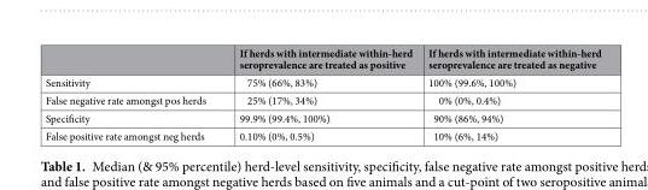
<table><thead><tr><td></td><td>If herds with intermediate within-herd seroprevalence are treated as positive</td><td>If herds with intermediate within-herd seroprevalence are treated as negative</td></tr></thead><tbody><tr><td>Sensitivity</td><td>75% (66%, 83%)</td><td>100% (99.6%, 100%)</td></tr><tr><td>False negative rate amongst pos herds</td><td>25% (17%, 34%)</td><td>0% (0%, 0.4%)</td></tr><tr><td>Specificity</td><td>99.9% (99.4%, 100%)</td><td>90% (86%, 94%)</td></tr><tr><td>False positive rate amongst neg herds</td><td>0.10% (0%, 0.5%)</td><td>10% (6%, 14%)</td></tr></tbody></table>